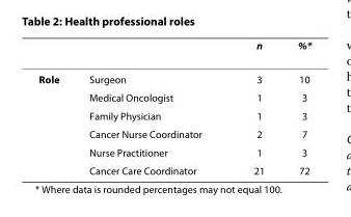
<table><thead><tr><td></td><td></td><td>n</td><td>%*</td></tr></thead><tbody><tr><td rowspan="6">Role</td><td>Surgeon</td><td>3</td><td>10</td></tr><tr><td>Medical Oncologist</td><td>1</td><td>3</td></tr><tr><td>Family Physician</td><td>1</td><td>3</td></tr><tr><td>Cancer Nurse Coordinator</td><td>2</td><td>7</td></tr><tr><td>Nurse Practitioner</td><td>1</td><td>3</td></tr><tr><td>Cancer Care Coordinator</td><td>21</td><td>72</td></tr></tbody></table>